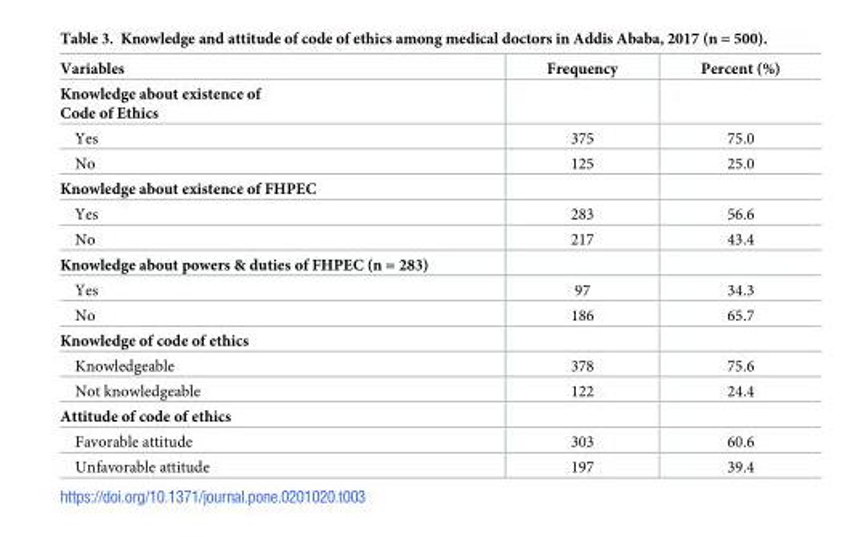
<table><thead><tr><td>Variables</td><td>Frequency</td><td>Percent (%)</td></tr></thead><tbody><tr><td colspan="3">Knowledge about existence of Code of Ethics</td></tr><tr><td>Yes</td><td>375</td><td>75.0</td></tr><tr><td>No</td><td>125</td><td>25.0</td></tr><tr><td colspan="3">Knowledge about existence of FHPEC</td></tr><tr><td>Yes</td><td>283</td><td>56.6</td></tr><tr><td>No</td><td>217</td><td>43.4</td></tr><tr><td colspan="3">Knowledge about powers &amp; duties of FHPEC (n = 283)</td></tr><tr><td>Yes</td><td>97</td><td>34.3</td></tr><tr><td>No</td><td>186</td><td>65.7</td></tr><tr><td colspan="3">Knowledge of code of ethics</td></tr><tr><td>Knowledgeable</td><td>378</td><td>75.6</td></tr><tr><td>Not knowledgeable</td><td>122</td><td>24.4</td></tr><tr><td colspan="3">Attitude of code of ethics</td></tr><tr><td>Favorable attitude</td><td>303</td><td>60.6</td></tr><tr><td>Unfavorable attitude</td><td>197</td><td>39.4</td></tr></tbody></table>